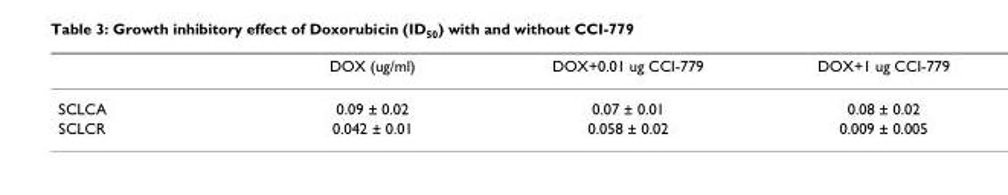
<table><thead><tr><td></td><td>DOX (ug/ml)</td><td>DOX+0.01 ug CCI-779</td><td>DOX+1 ug CCI-779</td></tr></thead><tbody><tr><td>SCLCA</td><td>0.09 ± 0.02</td><td>0.07 ± 0.01</td><td>0.08 ± 0.02</td></tr><tr><td>SCLCR</td><td>0.042 ± 0.01</td><td>0.058 ± 0.02</td><td>0.009 ± 0.005</td></tr></tbody></table>